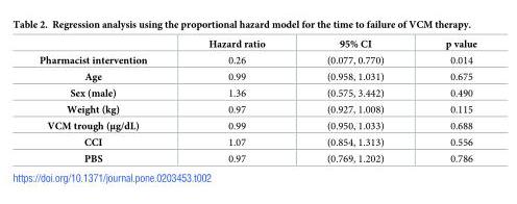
<table><thead><tr><td></td><td>Hazard ratio</td><td>95% CI</td><td>p value</td></tr></thead><tbody><tr><td>Pharmacist intervention</td><td>0.26</td><td>(0.077, 0.770)</td><td>0.014</td></tr><tr><td>Age</td><td>0.99</td><td>(0.958, 1.031)</td><td>0.675</td></tr><tr><td>Sex (male)</td><td>1.36</td><td>(0.575, 3.442)</td><td>0.490</td></tr><tr><td>Weight (kg)</td><td>0.97</td><td>(0.927, 1.008)</td><td>0.115</td></tr><tr><td>VCM trough (μg/dL)</td><td>0.99</td><td>(0.950, 1.033)</td><td>0.688</td></tr><tr><td>CCI</td><td>1.07</td><td>(0.854, 1.313)</td><td>0.556</td></tr><tr><td>PBS</td><td>0.97</td><td>(0.769, 1.202)</td><td>0.786</td></tr></tbody></table>